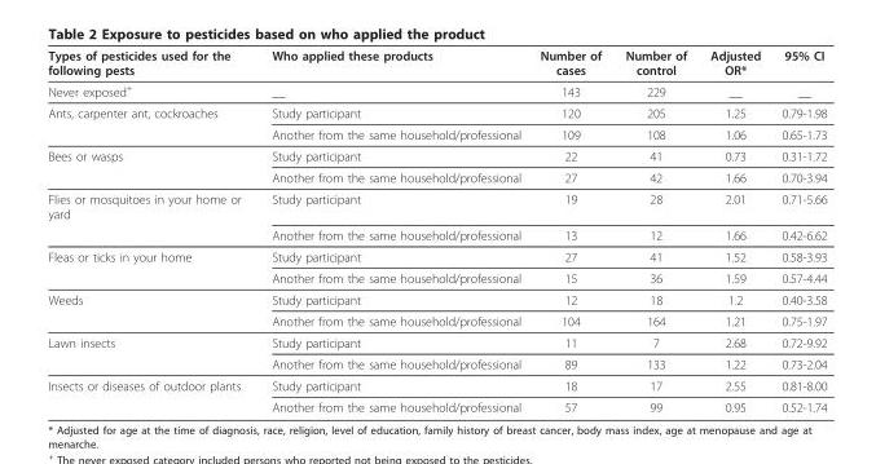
<table><thead><tr><td>Types of pesticides used for the following pests</td><td>Who applied these products</td><td>Number of cases</td><td>Number of control</td><td>Adjusted OR*</td><td>95% CI</td></tr></thead><tbody><tr><td>Never exposed<sup>+</sup></td><td>__</td><td>143</td><td>229</td><td>__</td><td>__</td></tr><tr><td rowspan="2">Ants, carpenter ant, cockroaches</td><td>Study participant</td><td>120</td><td>205</td><td>1.25</td><td>0.79-1.98</td></tr><tr><td>Another from the same household/professional</td><td>109</td><td>108</td><td>1.06</td><td>0.65-1.73</td></tr><tr><td rowspan="2">Bees or wasps</td><td>Study participant</td><td>22</td><td>41</td><td>0.73</td><td>0.31-1.72</td></tr><tr><td>Another from the same household/professional</td><td>27</td><td>42</td><td>1.66</td><td>0.70-3.94</td></tr><tr><td rowspan="2">Flies or mosquitoes in your home or yard</td><td>Study participant</td><td>19</td><td>28</td><td>2.01</td><td>0.71-5.66</td></tr><tr><td>Another from the same household/professional</td><td>13</td><td>12</td><td>1.66</td><td>0.42-6.62</td></tr><tr><td rowspan="2">Fleas or ticks in your home</td><td>Study participant</td><td>27</td><td>41</td><td>1.52</td><td>0.58-3.93</td></tr><tr><td>Another from the same household/professional</td><td>15</td><td>36</td><td>1.59</td><td>0.57-4.44</td></tr><tr><td rowspan="2">Weeds</td><td>Study participant</td><td>12</td><td>18</td><td>1.2</td><td>0.40-3.58</td></tr><tr><td>Another from the same household/professional</td><td>104</td><td>164</td><td>1.21</td><td>0.75-1.97</td></tr><tr><td rowspan="2">Lawn insects</td><td>Study participant</td><td>11</td><td>7</td><td>2.68</td><td>0.72-9.92</td></tr><tr><td>Another from the same household/professional</td><td>89</td><td>133</td><td>1.22</td><td>0.73-2.04</td></tr><tr><td rowspan="2">Insects or diseases of outdoor plants</td><td>Study participant</td><td>18</td><td>17</td><td>2.55</td><td>0.81-8.00</td></tr><tr><td>Another from the same household/professional</td><td>57</td><td>99</td><td>0.95</td><td>0.52-1.74</td></tr></tbody></table>